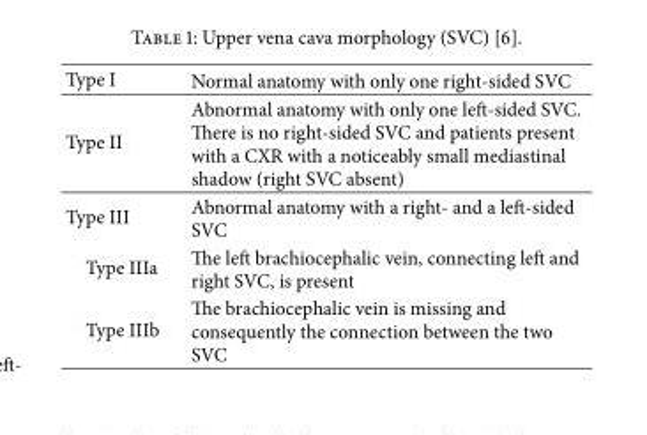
<table><tbody><tr><td>Type I</td><td>Normal anatomy with only one right-sided SVC</td></tr><tr><td>Type II</td><td>Abnormal anatomy with only one left-sided SVC. There is no right-sided SVC and patients present with a CXR with a noticeably small mediastinal shadow (right SVC absent)</td></tr><tr><td>Type III</td><td>Abnormal anatomy with a right- and a left-sided SVC</td></tr><tr><td>Type IIIa</td><td>The left brachiocephalic vein, connecting left and right SVC, is present</td></tr><tr><td>Type IIIb</td><td>The brachiocephalic vein is missing and consequently the connection between the two SVC</td></tr></tbody></table>